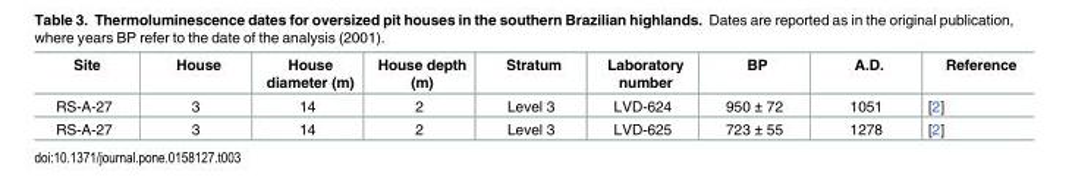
<table><thead><tr><td>Site</td><td>House</td><td>House diameter (m)</td><td>House depth (m)</td><td>Stratum</td><td>Laboratory number</td><td>BP</td><td>A.D.</td><td>Reference</td></tr></thead><tbody><tr><td>RS-A-27</td><td>3</td><td>14</td><td>2</td><td>Level 3</td><td>LVD-624</td><td>950 ± 72</td><td>1051</td><td>[2]</td></tr><tr><td>RS-A-27</td><td>3</td><td>14</td><td>2</td><td>Level 3</td><td>LVD-625</td><td>723 ± 55</td><td>1278</td><td>[2]</td></tr></tbody></table>